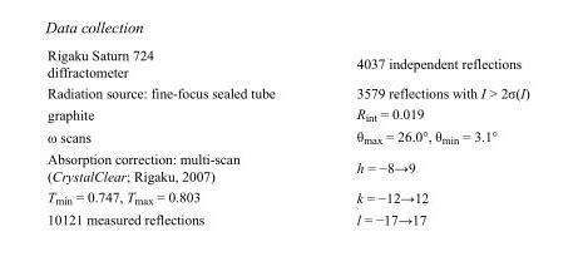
<table><tbody><tr><td>Rigaku Saturn 724 diffractometer</td><td>4037 independent reflections</td></tr><tr><td>Radiation source: fine-focus sealed tube</td><td>3579 reflections with I &gt; 2σ(I)</td></tr><tr><td>graphite</td><td>R<sub>int</sub> = 0.019</td></tr><tr><td>ω scans</td><td>θ<sub>max</sub> = 26.0°, θ<sub>min</sub> = 3.1°</td></tr><tr><td>Absorption correction: multi-scan (CrystalClear; Rigaku, 2007)</td><td>h = −8→9</td></tr><tr><td>T<sub>min</sub> = 0.747, T<sub>max</sub> = 0.803</td><td>k = −12→12</td></tr><tr><td>10121 measured reflections</td><td>l = −17→17</td></tr></tbody></table>